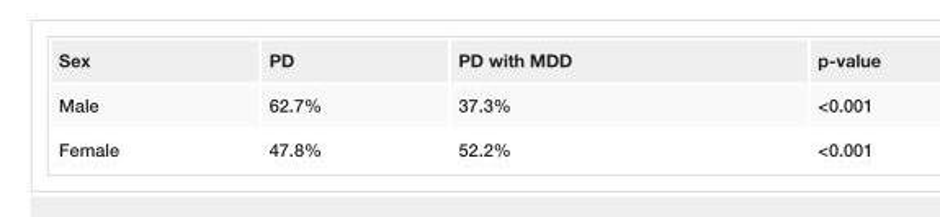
<table><tbody><tr><td>Sex</td><td>PD</td><td>PD with MDD</td><td>p-value</td></tr><tr><td>Male</td><td>62.7%</td><td>37.3%</td><td>&lt;0.001</td></tr><tr><td>Female</td><td>47.8%</td><td>52.2%</td><td>&lt;0.001</td></tr></tbody></table>